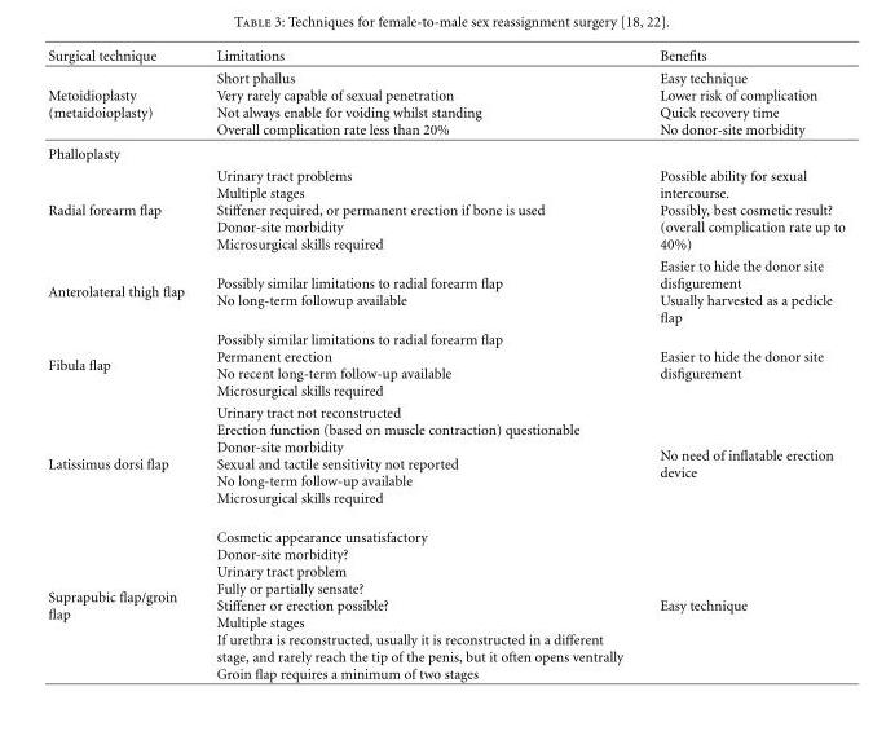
<table><thead><tr><td>Surgical technique</td><td>Limitations</td><td>Benefits</td></tr></thead><tbody><tr><td>Metoidioplasty (metaidoioplasty)</td><td>Short phallus Very rarely capable of sexual penetration Not always enable for voiding whilst standing Overall complication rate less than 20%</td><td>Easy technique Lower risk of complication Quick recovery time No donor-site morbidity</td></tr><tr><td colspan="3">Phalloplasty</td></tr><tr><td>Radial forearm flap</td><td>Urinary tract problems Multiple stages Stiffener required, or permanent erection if bone is used Donor-site morbidity Microsurgical skills required</td><td>Possible ability for sexual intercourse. Possibly, best cosmetic result? (overall complication rate up to 40%)</td></tr><tr><td>Anterolateral thigh flap</td><td>Possibly similar limitations to radial forearm flap No long-term followup available</td><td>Easier to hide the donor site disfigurement Usually harvested as a pedicle flap</td></tr><tr><td>Fibula flap</td><td>Possibly similar limitations to radial forearm flap Permanent erection No recent long-term follow-up available Microsurgical skills required</td><td>Easier to hide the donor site disfigurement</td></tr><tr><td>Latissimus dorsi flap</td><td>Urinary tract not reconstructed Erection function (based on muscle contraction) questionable Donor-site morbidity Sexual and tactile sensitivity not reported No long-term follow-up available Microsurgical skills required</td><td>No need of inflatable erection device</td></tr><tr><td>Suprapubic flap/groin flap</td><td>Cosmetic appearance unsatisfactory Donor-site morbidity? Urinary tract problem Fully or partially sensate? Stiffener or erection possible? Multiple stages If urethra is reconstructed, usually it is reconstructed in a different stage, and rarely reach the tip of the penis, but it often opens ventrally Groin flap requires a minimum of two stages</td><td>Easy technique</td></tr></tbody></table>